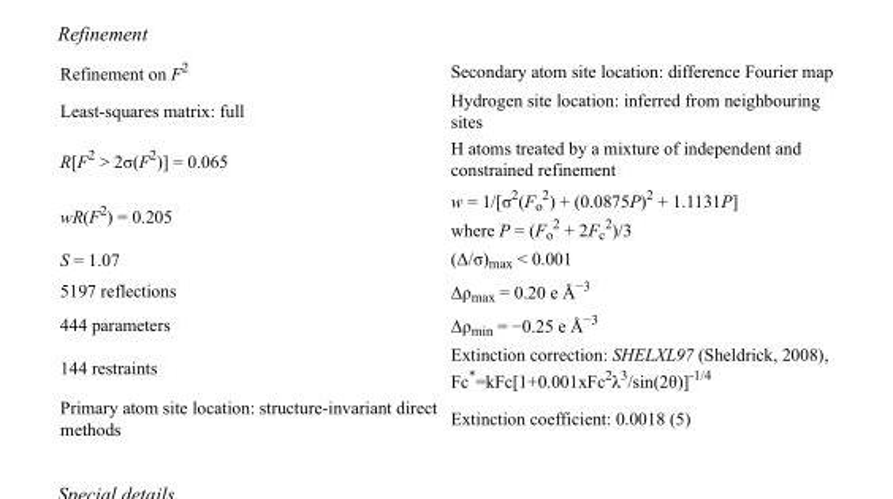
<table><tbody><tr><td>Refinement on F<sup>2</sup></td><td>Secondary atom site location: difference Fourier map</td></tr><tr><td>Least-squares matrix: full</td><td>Hydrogen site location: inferred from neighbouring sites</td></tr><tr><td>R[F<sup>2</sup> &gt; 2σ(F<sup>2</sup>)] = 0.065</td><td>H atoms treated by a mixture of independent and constrained refinement</td></tr><tr><td>wR(F<sup>2</sup>) = 0.205</td><td>w = 1/[σ<sup>2</sup>(F<sub>o</sub> <sup>2</sup>) + (0.0875P)<sup>2</sup> + 1.1131P] where P = (F<sub>o</sub> <sup>2</sup> + 2F<sub>c</sub> <sup>2</sup>)/3</td></tr><tr><td>S = 1.07</td><td>(Δ/σ)<sub>max</sub> &lt; 0.001</td></tr><tr><td>5197 reflections</td><td>Δρ<sub>max</sub> = 0.20 e Å<sup>−3</sup></td></tr><tr><td>444 parameters</td><td>Δρ<sub>min</sub> = −0.25 e Å<sup>−3</sup></td></tr><tr><td>144 restraints</td><td>Extinction correction: SHELXL97 (Sheldrick, 2008), Fc*=kFc[1+0.001xFc<sup>2</sup>λ<sup>3</sup>/sin(2θ)]<sup>-1/4</sup></td></tr><tr><td>Primary atom site location: structure-invariant direct methods</td><td>Extinction coefficient: 0.0018 (5)</td></tr></tbody></table>